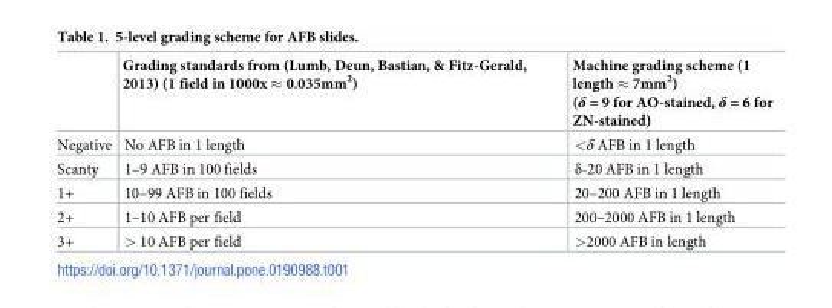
<table><thead><tr><td></td><td>Grading standards from (Lumb, Deun, Bastian, &amp; Fitz-Gerald, 2013) (1 field in 1000x ≈ 0.035mm<sup>2</sup>)</td><td>Machine grading scheme (1 length ≈ 7mm<sup>2</sup>) (δ = 9 for AO-stained, δ = 6 for ZN-stained)</td></tr></thead><tbody><tr><td>Negative</td><td>No AFB in 1 length</td><td>&lt;δ AFB in 1 length</td></tr><tr><td>Scanty</td><td>1–9 AFB in 100 fields</td><td>δ-20 AFB in 1 length</td></tr><tr><td>1+</td><td>10–99 AFB in 100 fields</td><td>20–200 AFB in 1 length</td></tr><tr><td>2+</td><td>1–10 AFB per field</td><td>200–2000 AFB in 1 length</td></tr><tr><td>3+</td><td>&gt; 10 AFB per field</td><td>&gt;2000 AFB in length</td></tr></tbody></table>